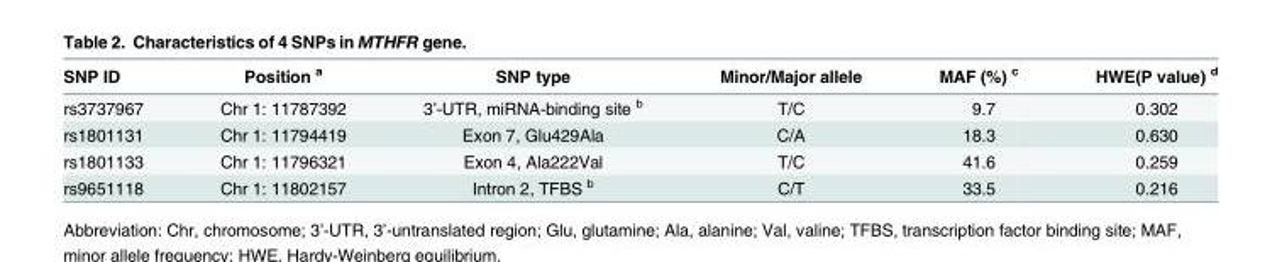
<table><thead><tr><td>SNP ID</td><td>Position <sup>a</sup></td><td>SNP type</td><td>Minor/Major allele</td><td>MAF (%) <sup>c</sup></td><td>HWE(P value) <sup>d</sup></td></tr></thead><tbody><tr><td>rs3737967</td><td>Chr 1: 11787392</td><td>3’-UTR, miRNA-binding site <sup>b</sup></td><td>T/C</td><td>9.7</td><td>0.302</td></tr><tr><td>rs1801131</td><td>Chr 1: 11794419</td><td>Exon 7, Glu429Ala</td><td>C/A</td><td>18.3</td><td>0.630</td></tr><tr><td>rs1801133</td><td>Chr 1: 11796321</td><td>Exon 4, Ala222Val</td><td>T/C</td><td>41.6</td><td>0.259</td></tr><tr><td>rs9651118</td><td>Chr 1: 11802157</td><td>Intron 2, TFBS <sup>b</sup></td><td>C/T</td><td>33.5</td><td>0.216</td></tr></tbody></table>